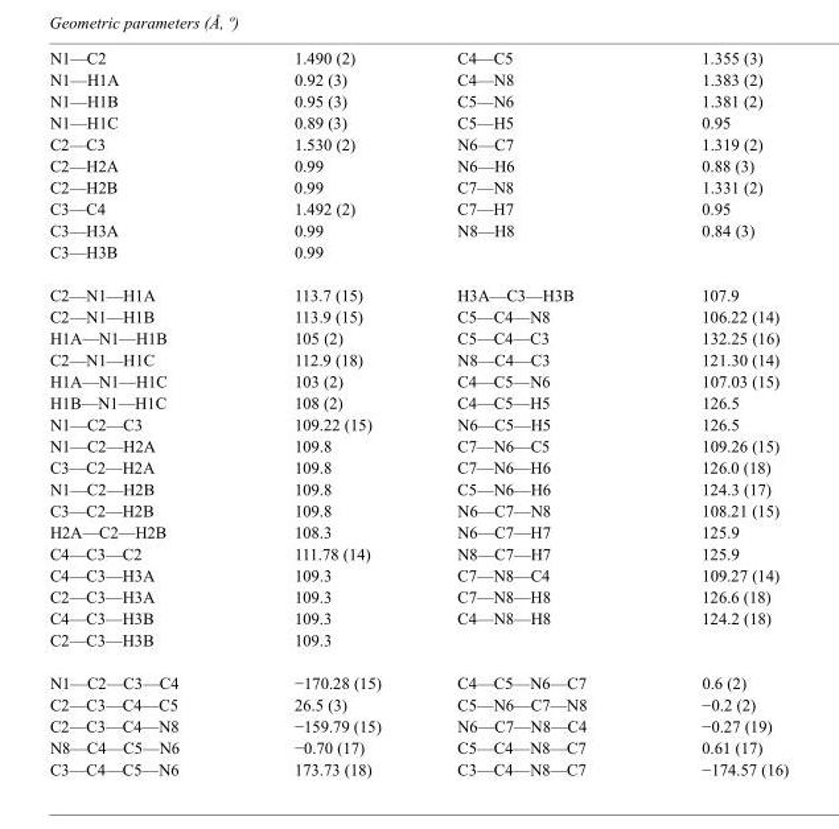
<table><tbody><tr><td>N1—C2</td><td>1.490 (2)</td><td>C4—C5</td><td>1.355 (3)</td></tr><tr><td>N1—H1A</td><td>0.92 (3)</td><td>C4—N8</td><td>1.383 (2)</td></tr><tr><td>N1—H1B</td><td>0.95 (3)</td><td>C5—N6</td><td>1.381 (2)</td></tr><tr><td>N1—H1C</td><td>0.89 (3)</td><td>C5—H5</td><td>0.95</td></tr><tr><td>C2—C3</td><td>1.530 (2)</td><td>N6—C7</td><td>1.319 (2)</td></tr><tr><td>C2—H2A</td><td>0.99</td><td>N6—H6</td><td>0.88 (3)</td></tr><tr><td>C2—H2B</td><td>0.99</td><td>C7—N8</td><td>1.331 (2)</td></tr><tr><td>C3—C4</td><td>1.492 (2)</td><td>C7—H7</td><td>0.95</td></tr><tr><td>C3—H3A</td><td>0.99</td><td>N8—H8</td><td>0.84 (3)</td></tr><tr><td>C3—H3B</td><td>0.99</td><td></td><td></td></tr><tr><td>C2—N1—H1A</td><td>113.7 (15)</td><td>H3A—C3—H3B</td><td>107.9</td></tr><tr><td>C2—N1—H1B</td><td>113.9 (15)</td><td>C5—C4—N8</td><td>106.22 (14)</td></tr><tr><td>H1A—N1—H1B</td><td>105 (2)</td><td>C5—C4—C3</td><td>132.25 (16)</td></tr><tr><td>C2—N1—H1C</td><td>112.9 (18)</td><td>N8—C4—C3</td><td>121.30 (14)</td></tr><tr><td>H1A—N1—H1C</td><td>103 (2)</td><td>C4—C5—N6</td><td>107.03 (15)</td></tr><tr><td>H1B—N1—H1C</td><td>108 (2)</td><td>C4—C5—H5</td><td>126.5</td></tr><tr><td>N1—C2—C3</td><td>109.22 (15)</td><td>N6—C5—H5</td><td>126.5</td></tr><tr><td>N1—C2—H2A</td><td>109.8</td><td>C7—N6—C5</td><td>109.26 (15)</td></tr><tr><td>C3—C2—H2A</td><td>109.8</td><td>C7—N6—H6</td><td>126.0 (18)</td></tr><tr><td>N1—C2—H2B</td><td>109.8</td><td>C5—N6—H6</td><td>124.3 (17)</td></tr><tr><td>C3—C2—H2B</td><td>109.8</td><td>N6—C7—N8</td><td>108.21 (15)</td></tr><tr><td>H2A—C2—H2B</td><td>108.3</td><td>N6—C7—H7</td><td>125.9</td></tr><tr><td>C4—C3—C2</td><td>111.78 (14)</td><td>N8—C7—H7</td><td>125.9</td></tr><tr><td>C4—C3—H3A</td><td>109.3</td><td>C7—N8—C4</td><td>109.27 (14)</td></tr><tr><td>C2—C3—H3A</td><td>109.3</td><td>C7—N8—H8</td><td>126.6 (18)</td></tr><tr><td>C4—C3—H3B</td><td>109.3</td><td>C4—N8—H8</td><td>124.2 (18)</td></tr><tr><td>C2—C3—H3B</td><td>109.3</td><td></td><td></td></tr><tr><td>N1—C2—C3—C4</td><td>−170.28 (15)</td><td>C4—C5—N6—C7</td><td>0.6 (2)</td></tr><tr><td>C2—C3—C4—C5</td><td>26.5 (3)</td><td>C5—N6—C7—N8</td><td>−0.2 (2)</td></tr><tr><td>C2—C3—C4—N8</td><td>−159.79 (15)</td><td>N6—C7—N8—C4</td><td>−0.27 (19)</td></tr><tr><td>N8—C4—C5—N6</td><td>−0.70 (17)</td><td>C5—C4—N8—C7</td><td>0.61 (17)</td></tr><tr><td>C3—C4—C5—N6</td><td>173.73 (18)</td><td>C3—C4—N8—C7</td><td>−174.57 (16)</td></tr></tbody></table>